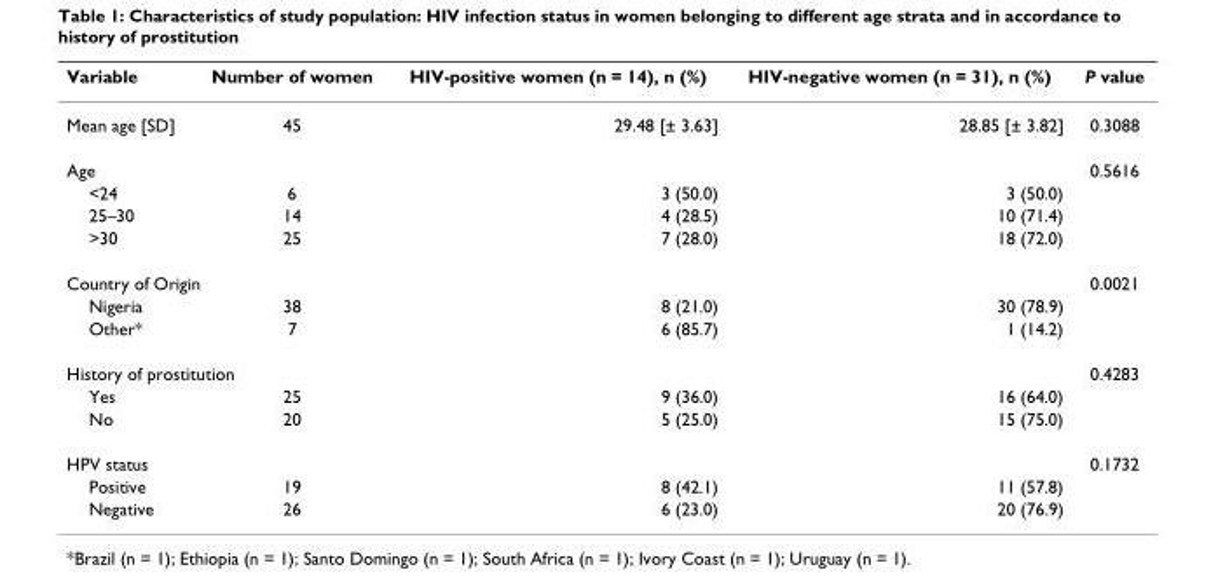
<table><thead><tr><td>Variable</td><td>Number of women</td><td>HIV-positive women (n = 14), n (%)</td><td>HIV-negative women (n = 31), n (%)</td><td>P value</td></tr></thead><tbody><tr><td>Mean age [SD]</td><td>45</td><td>29.48 [± 3.63]</td><td>28.85 [± 3.82]</td><td>0.3088</td></tr><tr><td colspan="4">Age</td><td>0.5616</td></tr><tr><td>&lt;24</td><td>6</td><td>3 (50.0)</td><td>3 (50.0)</td><td></td></tr><tr><td>25–30</td><td>14</td><td>4 (28.5)</td><td>10 (71.4)</td><td></td></tr><tr><td>&gt;30</td><td>25</td><td>7 (28.0)</td><td>18 (72.0)</td><td></td></tr><tr><td colspan="4">Country of Origin</td><td>0.0021</td></tr><tr><td>Nigeria</td><td>38</td><td>8 (21.0)</td><td>30 (78.9)</td><td></td></tr><tr><td>Other*</td><td>7</td><td>6 (85.7)</td><td>1 (14.2)</td><td></td></tr><tr><td colspan="4">History of prostitution</td><td>0.4283</td></tr><tr><td>Yes</td><td>25</td><td>9 (36.0)</td><td>16 (64.0)</td><td></td></tr><tr><td>No</td><td>20</td><td>5 (25.0)</td><td>15 (75.0)</td><td></td></tr><tr><td colspan="4">HPV status</td><td>0.1732</td></tr><tr><td>Positive</td><td>19</td><td>8 (42.1)</td><td>11 (57.8)</td><td></td></tr><tr><td>Negative</td><td>26</td><td>6 (23.0)</td><td>20 (76.9)</td><td></td></tr></tbody></table>